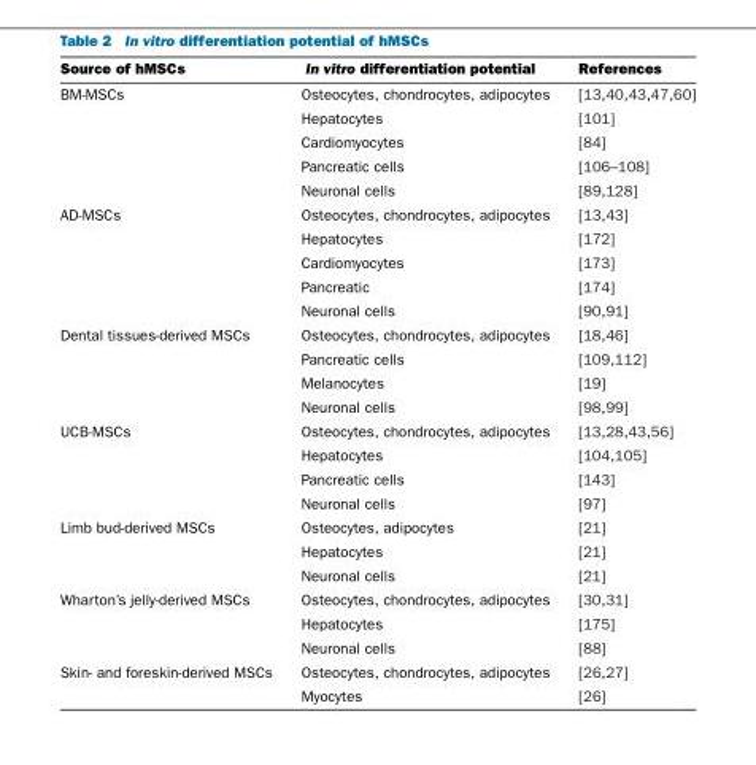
<table><thead><tr><td>Source of hMSCs</td><td>In vitro differentiation potential</td><td>References</td></tr></thead><tbody><tr><td rowspan="5">BM-MSCs</td><td>Osteocytes, chondrocytes, adipocytes</td><td>[13,40,43,47,60]</td></tr><tr><td>Hepatocytes</td><td>[101]</td></tr><tr><td>Cardiomyocytes</td><td>[84]</td></tr><tr><td>Pancreatic cells</td><td>[106–108]</td></tr><tr><td>Neuronal cells</td><td>[89,128]</td></tr><tr><td rowspan="5">AD-MSCs</td><td>Osteocytes, chondrocytes, adipocytes</td><td>[13,43]</td></tr><tr><td>Hepatocytes</td><td>[172]</td></tr><tr><td>Cardiomyocytes</td><td>[173]</td></tr><tr><td>Pancreatic</td><td>[174]</td></tr><tr><td>Neuronal cells</td><td>[90,91]</td></tr><tr><td rowspan="4">Dental tissues-derived MSCs</td><td>Osteocytes, chondrocytes, adipocytes</td><td>[18,46]</td></tr><tr><td>Pancreatic cells</td><td>[109,112]</td></tr><tr><td>Melanocytes</td><td>[19]</td></tr><tr><td>Neuronal cells</td><td>[98,99]</td></tr><tr><td rowspan="4">UCB-MSCs</td><td>Osteocytes, chondrocytes, adipocytes</td><td>[13,28,43,56]</td></tr><tr><td>Hepatocytes</td><td>[104,105]</td></tr><tr><td>Pancreatic cells</td><td>[143]</td></tr><tr><td>Neuronal cells</td><td>[97]</td></tr><tr><td rowspan="3">Limb bud-derived MSCs</td><td>Osteocytes, adipocytes</td><td>[21]</td></tr><tr><td>Hepatocytes</td><td>[21]</td></tr><tr><td>Neuronal cells</td><td>[21]</td></tr><tr><td rowspan="3">Wharton’s jelly-derived MSCs</td><td>Osteocytes, chondrocytes, adipocytes</td><td>[30,31]</td></tr><tr><td>Hepatocytes</td><td>[175]</td></tr><tr><td>Neuronal cells</td><td>[88]</td></tr><tr><td rowspan="2">Skin- and foreskin-derived MSCs</td><td>Osteocytes, chondrocytes, adipocytes</td><td>[26,27]</td></tr><tr><td>Myocytes</td><td>[26]</td></tr></tbody></table>